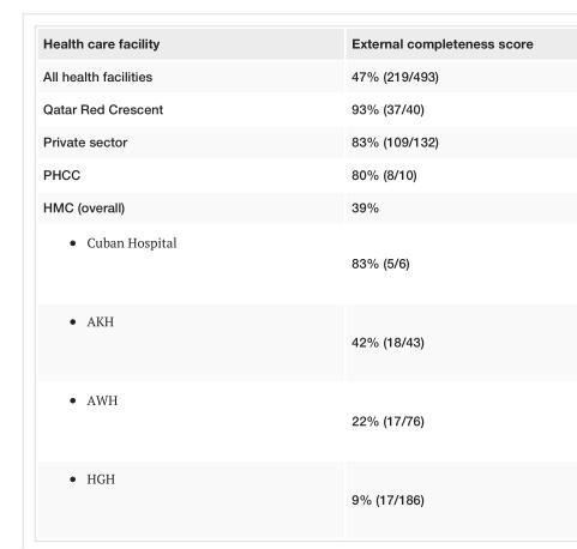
<table><tbody><tr><td>Health care facility</td><td>External completeness score</td></tr><tr><td>All health facilities</td><td>47% (219/493)</td></tr><tr><td>Qatar Red Crescent</td><td>93% (37/40)</td></tr><tr><td>Private sector</td><td>83% (109/132)</td></tr><tr><td>PHCC</td><td>80% (8/10)</td></tr><tr><td>HMC (overall)</td><td>39%</td></tr><tr><td>Cuban Hospital</td><td>83% (5/6)</td></tr><tr><td>AKH</td><td>42% (18/43)</td></tr><tr><td>AWH</td><td>22% (17/76)</td></tr><tr><td>HGH</td><td>9% (17/186)</td></tr></tbody></table>